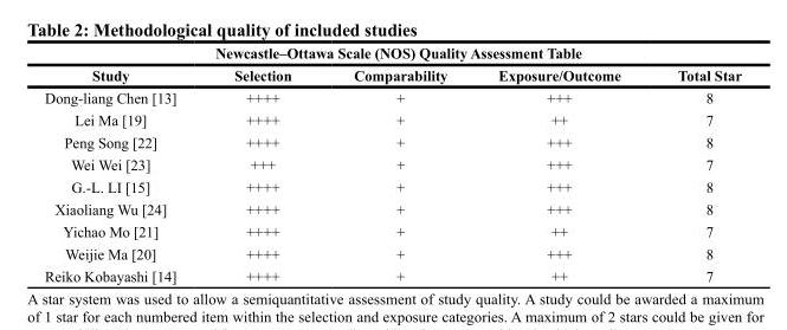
<table><thead><tr><td colspan="5">Newcastle–Ottawa Scale (NOS) Quality Assessment Table</td></tr><tr><td>Study</td><td>Selection</td><td>Comparability</td><td>Exposure/Outcome</td><td>Total Star</td></tr></thead><tbody><tr><td>Dong-liang Chen [13]</td><td>++++</td><td>+</td><td>+++</td><td>8</td></tr><tr><td>Lei Ma [19]</td><td>++++</td><td>+</td><td>++</td><td>7</td></tr><tr><td>Peng Song [22]</td><td>++++</td><td>+</td><td>+++</td><td>8</td></tr><tr><td>Wei Wei [23]</td><td>+++</td><td>+</td><td>+++</td><td>7</td></tr><tr><td>G.-L. LI [15]</td><td>++++</td><td>+</td><td>+++</td><td>8</td></tr><tr><td>Xiaoliang Wu [24]</td><td>++++</td><td>+</td><td>+++</td><td>8</td></tr><tr><td>Yichao Mo [21]</td><td>++++</td><td>+</td><td>++</td><td>7</td></tr><tr><td>Weijie Ma [20]</td><td>++++</td><td>+</td><td>+++</td><td>8</td></tr><tr><td>Reiko Kobayashi [14]</td><td>++++</td><td>+</td><td>++</td><td>7</td></tr></tbody></table>